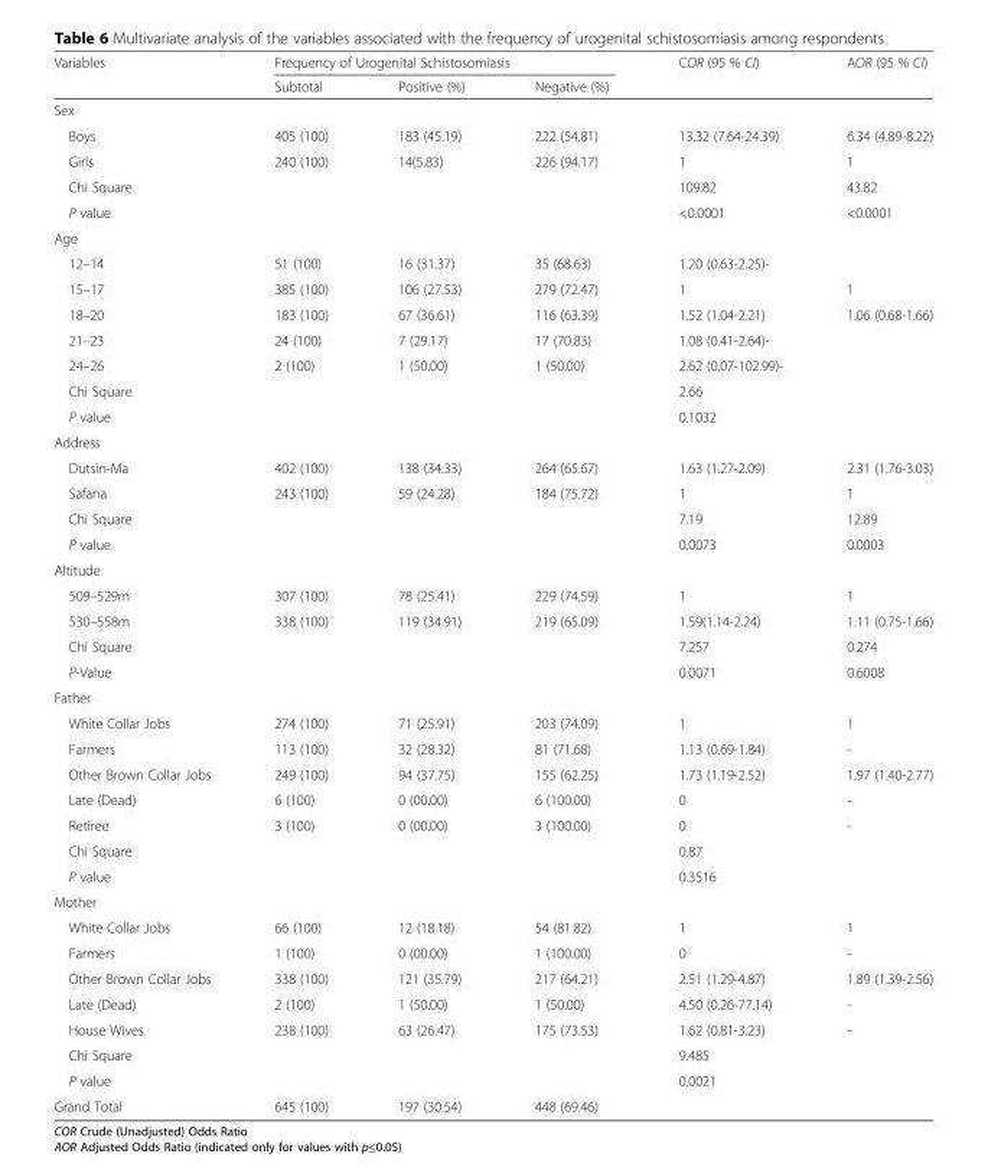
<table><thead><tr><td rowspan="2">Variables</td><td colspan="3">Frequency of Urogenital Schistosomiasis</td><td rowspan="2">COR (95 % CI)</td><td rowspan="2">AOR (95 % CI)</td></tr><tr><td>Subtotal</td><td>Positive (%)</td><td>Negative (%)</td></tr></thead><tbody><tr><td colspan="6">Sex</td></tr><tr><td>Boys</td><td>405 (100)</td><td>183 (45.19)</td><td>222 (54.81)</td><td>13.32 (7.64-24.39)</td><td>6.34 (4.89-8.22)</td></tr><tr><td>Girls</td><td>240 (100)</td><td>14(5.83)</td><td>226 (94.17)</td><td>1</td><td>1</td></tr><tr><td>Chi Square</td><td></td><td></td><td></td><td>109.82</td><td>43.82</td></tr><tr><td>P value</td><td></td><td></td><td></td><td>&lt;0.0001</td><td>&lt;0.0001</td></tr><tr><td colspan="6">Age</td></tr><tr><td>12–14</td><td>51 (100)</td><td>16 (31.37)</td><td>35 (68.63)</td><td>1.20 (0.63-2.25)-</td><td></td></tr><tr><td>15–17</td><td>385 (100)</td><td>106 (27.53)</td><td>279 (72.47)</td><td>1</td><td>1</td></tr><tr><td>18–20</td><td>183 (100)</td><td>67 (36.61)</td><td>116 (63.39)</td><td>1.52 (1.04-2.21)</td><td>1.06 (0.68-1.66)</td></tr><tr><td>21–23</td><td>24 (100)</td><td>7 (29.17)</td><td>17 (70.83)</td><td>1.08 (0.41-2.64)-</td><td></td></tr><tr><td>24–26</td><td>2 (100)</td><td>1 (50.00)</td><td>1 (50.00)</td><td>2.62 (0.07-102.99)-</td><td></td></tr><tr><td>Chi Square</td><td></td><td></td><td></td><td>2.66</td><td></td></tr><tr><td>P value</td><td></td><td></td><td></td><td>0.1032</td><td></td></tr><tr><td colspan="6">Address</td></tr><tr><td>Dutsin-Ma</td><td>402 (100)</td><td>138 (34.33)</td><td>264 (65.67)</td><td>1.63 (1.27-2.09)</td><td>2.31 (1.76-3.03)</td></tr><tr><td>Safana</td><td>243 (100)</td><td>59 (24.28)</td><td>184 (75.72)</td><td>1</td><td>1</td></tr><tr><td>Chi Square</td><td></td><td></td><td></td><td>7.19</td><td>12.89</td></tr><tr><td>P value</td><td></td><td></td><td></td><td>0.0073</td><td>0.0003</td></tr><tr><td colspan="6">Altitude</td></tr><tr><td>509–529m</td><td>307 (100)</td><td>78 (25.41)</td><td>229 (74.59)</td><td>1</td><td>1</td></tr><tr><td>530–558m</td><td>338 (100)</td><td>119 (34.91)</td><td>219 (65.09)</td><td>1.59(1.14-2.24)</td><td>1.11 (0.75-1.66)</td></tr><tr><td>Chi Square</td><td></td><td></td><td></td><td>7.257</td><td>0.274</td></tr><tr><td>P-Value</td><td></td><td></td><td></td><td>0.0071</td><td>0.6008</td></tr><tr><td colspan="6">Father</td></tr><tr><td>White Collar Jobs</td><td>274 (100)</td><td>71 (25.91)</td><td>203 (74.09)</td><td>1</td><td>1</td></tr><tr><td>Farmers</td><td>113 (100)</td><td>32 (28.32)</td><td>81 (71.68)</td><td>1.13 (0.69-1.84)</td><td>-</td></tr><tr><td>Other Brown Collar Jobs</td><td>249 (100)</td><td>94 (37.75)</td><td>155 (62.25)</td><td>1.73 (1.19-2.52)</td><td>1.97 (1.40-2.77)</td></tr><tr><td>Late (Dead)</td><td>6 (100)</td><td>0 (00.00)</td><td>6 (100.00)</td><td>0</td><td>-</td></tr><tr><td>Retiree</td><td>3 (100)</td><td>0 (00.00)</td><td>3 (100.00)</td><td>0</td><td>-</td></tr><tr><td>Chi Square</td><td></td><td></td><td></td><td>0.87</td><td></td></tr><tr><td>P value</td><td></td><td></td><td></td><td>0.3516</td><td></td></tr><tr><td colspan="6">Mother</td></tr><tr><td>White Collar Jobs</td><td>66 (100)</td><td>12 (18.18)</td><td>54 (81.82)</td><td>1</td><td>1</td></tr><tr><td>Farmers</td><td>1 (100)</td><td>0 (00.00)</td><td>1 (100.00)</td><td>0</td><td>-</td></tr><tr><td>Other Brown Collar Jobs</td><td>338 (100)</td><td>121 (35.79)</td><td>217 (64.21)</td><td>2.51 (1.29-4.87)</td><td>1.89 (1.39-2.56)</td></tr><tr><td>Late (Dead)</td><td>2 (100)</td><td>1 (50.00)</td><td>1 (50.00)</td><td>4.50 (0.26-77.14)</td><td>-</td></tr><tr><td>House Wives</td><td>238 (100)</td><td>63 (26.47)</td><td>175 (73.53)</td><td>1.62 (0.81-3.23)</td><td>-</td></tr><tr><td>Chi Square</td><td></td><td></td><td></td><td>9.485</td><td></td></tr><tr><td>P value</td><td></td><td></td><td></td><td>0.0021</td><td></td></tr><tr><td>Grand Total</td><td>645 (100)</td><td>197 (30.54)</td><td>448 (69.46)</td><td></td><td></td></tr></tbody></table>